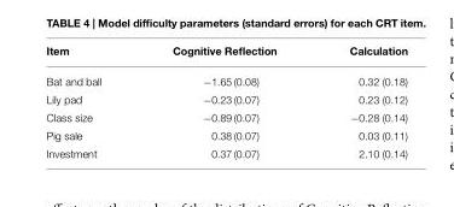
<table><thead><tr><td>Item</td><td>Cognitive Reflection</td><td>Calculation</td></tr></thead><tbody><tr><td>Bat and ball</td><td>−1.65 (0.08)</td><td>0.32 (0.18)</td></tr><tr><td>Lily pad</td><td>−0.23 (0.07)</td><td>0.23 (0.12)</td></tr><tr><td>Class size</td><td>−0.89 (0.07)</td><td>−0.28 (0.14)</td></tr><tr><td>Pig sale</td><td>0.38 (0.07)</td><td>0.03 (0.11)</td></tr><tr><td>Investment</td><td>0.37 (0.07)</td><td>2.10 (0.14)</td></tr></tbody></table>